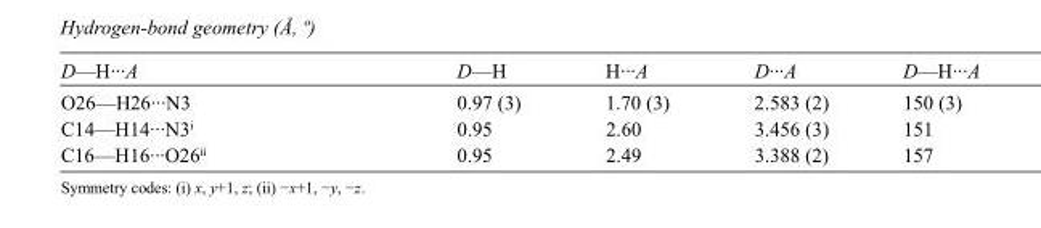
<table><tbody><tr><td>D—H···A</td><td>D—H</td><td>H···A</td><td>D···A</td><td>D—H···A</td></tr><tr><td>O26—H26···N3</td><td>0.97 (3)</td><td>1.70 (3)</td><td>2.583 (2)</td><td>150 (3)</td></tr><tr><td>C14—H14···N3<sup>i</sup></td><td>0.95</td><td>2.60</td><td>3.456 (3)</td><td>151</td></tr><tr><td>C16—H16···O26<sup>ii</sup></td><td>0.95</td><td>2.49</td><td>3.388 (2)</td><td>157</td></tr></tbody></table>